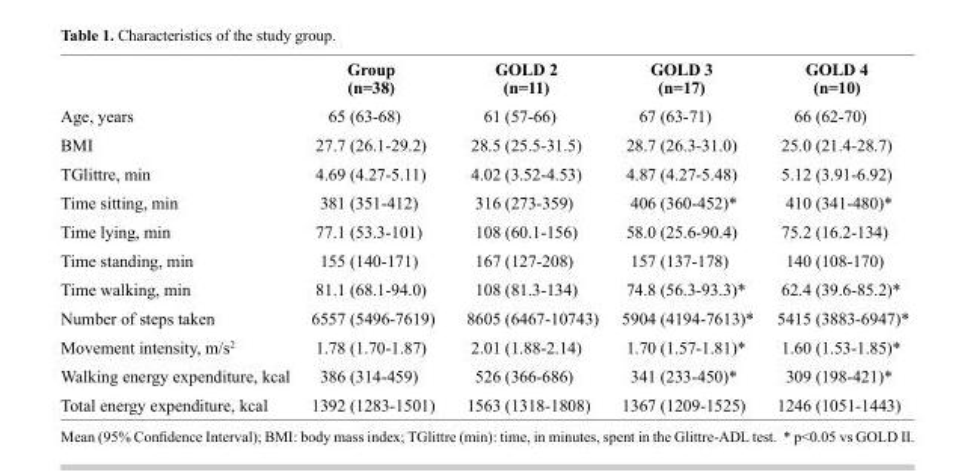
<table><thead><tr><td></td><td>Group (n=38)</td><td>GOLD 2 (n=11)</td><td>GOLD 3 (n=17)</td><td>GOLD 4 (n=10)</td></tr></thead><tbody><tr><td>Age, years</td><td>65 (63-68)</td><td>61 (57-66)</td><td>67 (63-71)</td><td>66 (62-70)</td></tr><tr><td>BMI</td><td>27.7 (26.1-29.2)</td><td>28.5 (25.5-31.5)</td><td>28.7 (26.3-31.0)</td><td>25.0 (21.4-28.7)</td></tr><tr><td>TGlittre, min</td><td>4.69 (4.27-5.11)</td><td>4.02 (3.52-4.53)</td><td>4.87 (4.27-5.48)</td><td>5.12 (3.91-6.92)</td></tr><tr><td>Time sitting, min</td><td>381 (351-412)</td><td>316 (273-359)</td><td>406 (360-452)*</td><td>410 (341-480)*</td></tr><tr><td>Time lying, min</td><td>77.1 (53.3-101)</td><td>108 (60.1-156)</td><td>58.0 (25.6-90.4)</td><td>75.2 (16.2-134)</td></tr><tr><td>Time standing, min</td><td>155 (140-171)</td><td>167 (127-208)</td><td>157 (137-178)</td><td>140 (108-170)</td></tr><tr><td>Time walking, min</td><td>81.1 (68.1-94.0)</td><td>108 (81.3-134)</td><td>74.8 (56.3-93.3)*</td><td>62.4 (39.6-85.2)*</td></tr><tr><td>Number of steps taken</td><td>6557 (5496-7619)</td><td>8605 (6467-10743)</td><td>5904 (4194-7613)*</td><td>5415 (3883-6947)*</td></tr><tr><td>Movement intensity, m/s<sup>2</sup></td><td>1.78 (1.70-1.87)</td><td>2.01 (1.88-2.14)</td><td>1.70 (1.57-1.81)*</td><td>1.60 (1.53-1.85)*</td></tr><tr><td>Walking energy expenditure, kcal</td><td>386 (314-459)</td><td>526 (366-686)</td><td>341 (233-450)*</td><td>309 (198-421)*</td></tr><tr><td>Total energy expenditure, kcal</td><td>1392 (1283-1501)</td><td>1563 (1318-1808)</td><td>1367 (1209-1525)</td><td>1246 (1051-1443)</td></tr></tbody></table>